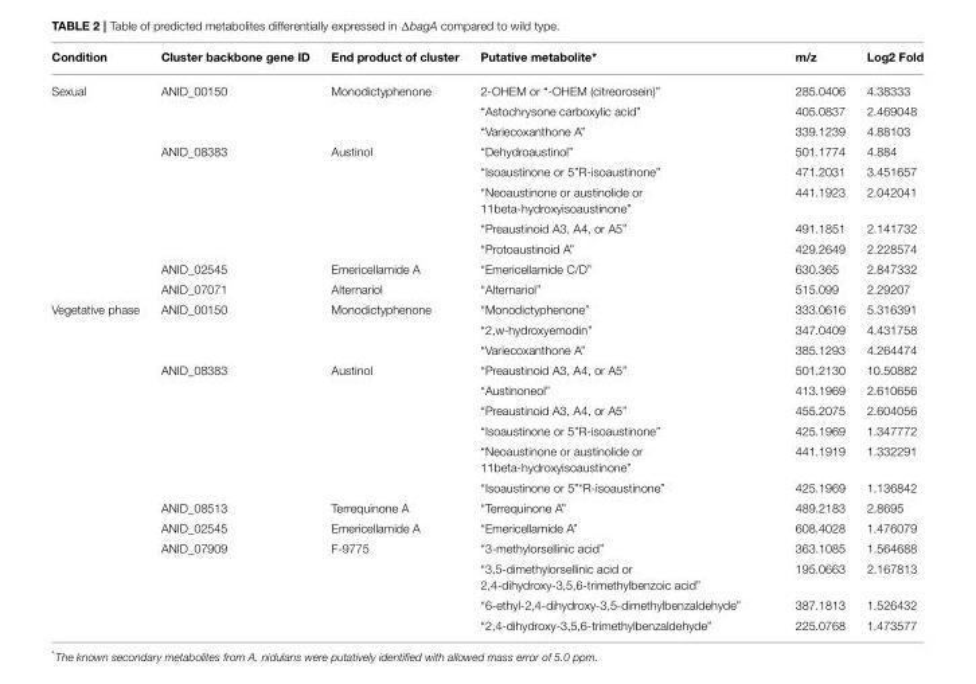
<table><thead><tr><td>Condition</td><td>Cluster backbone gene ID</td><td>End product of cluster</td><td>Putative metabolite*</td><td>m/z</td><td>Log2 Fold</td></tr></thead><tbody><tr><td rowspan="10">Sexual</td><td>ANID_00150</td><td>Monodictyphenone</td><td>2-OHEM or “-OHEM (citreorosein)”</td><td>285.0406</td><td>4.38333</td></tr><tr><td></td><td></td><td>“Astochrysone carboxylic acid”</td><td>405.0837</td><td>2.469048</td></tr><tr><td></td><td></td><td>“Variecoxanthone A”</td><td>339.1239</td><td>4.88103</td></tr><tr><td>ANID_08383</td><td>Austinol</td><td>“Dehydroaustinol”</td><td>501.1774</td><td>4.884</td></tr><tr><td></td><td></td><td>“Isoaustinone or 5”R-isoaustinone”</td><td>471.2031</td><td>3.451657</td></tr><tr><td></td><td></td><td>“Neoaustinone or austinolide or 11beta-hydroxyisoaustinone”</td><td>441.1923</td><td>2.042041</td></tr><tr><td></td><td></td><td>“Preaustinoid A3, A4, or A5”</td><td>491.1851</td><td>2.141732</td></tr><tr><td></td><td></td><td>“Protoaustinoid A”</td><td>429.2649</td><td>2.228574</td></tr><tr><td>ANID_02545</td><td>Emericellamide A</td><td>“Emericellamide C/D”</td><td>630.365</td><td>2.847332</td></tr><tr><td>ANID_07071</td><td>Alternariol</td><td>“Alternariol”</td><td>515.099</td><td>2.29207</td></tr><tr><td rowspan="15">Vegetative phase</td><td>ANID_00150</td><td>Monodictyphenone</td><td>“Monodictyphenone”</td><td>333.0616</td><td>5.316391</td></tr><tr><td></td><td></td><td>“2,w-hydroxyemodin”</td><td>347.0409</td><td>4.431758</td></tr><tr><td></td><td></td><td>“Variecoxanthone A”</td><td>385.1293</td><td>4.264474</td></tr><tr><td>ANID_08383</td><td>Austinol</td><td>“Preaustinoid A3, A4, or A5”</td><td>501.2130</td><td>10.50882</td></tr><tr><td></td><td></td><td>“Austinoneol”</td><td>413.1969</td><td>2.610656</td></tr><tr><td></td><td></td><td>“Preaustinoid A3, A4, or A5”</td><td>455.2075</td><td>2.604056</td></tr><tr><td></td><td></td><td>“Isoaustinone or 5”R-isoaustinone”</td><td>425.1969</td><td>1.347772</td></tr><tr><td></td><td></td><td>“Neoaustinone or austinolide or 11beta-hydroxyisoaustinone”</td><td>441.1919</td><td>1.332291</td></tr><tr><td></td><td></td><td>“Isoaustinone or 5”“R-isoaustinone”</td><td>425.1969</td><td>1.136842</td></tr><tr><td>ANID_08513</td><td>Terrequinone A</td><td>“Terrequinone A”</td><td>489.2183</td><td>2.8695</td></tr><tr><td>ANID_02545</td><td>Emericellamide A</td><td>“Emericellamide A”</td><td>608.4028</td><td>1.476079</td></tr><tr><td>ANID_07909</td><td>F-9775</td><td>“3-methylorsellinic acid”</td><td>363.1085</td><td>1.564688</td></tr><tr><td></td><td></td><td>“3,5-dimethylorsellinic acid or 2,4-dihydroxy-3,5,6-trimethylbenzoic acid”</td><td>195.0663</td><td>2.167813</td></tr><tr><td></td><td></td><td>“6-ethyl-2,4-dihydroxy-3,5-dimethylbenzaldehyde”</td><td>387.1813</td><td>1.526432</td></tr><tr><td></td><td></td><td>“2,4-dihydroxy-3,5,6-trimethylbenzaldehyde”</td><td>225.0768</td><td>1.473577</td></tr></tbody></table>